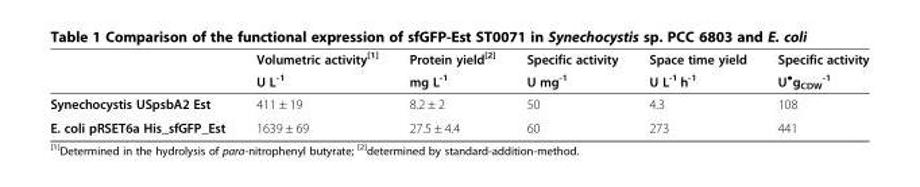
<table><thead><tr><td rowspan="2"></td><td rowspan="2">Volumetric activity<sup>[1]</sup> U L<sup>-1</sup></td><td rowspan="2">Protein yield<sup>[2]</sup> mg L<sup>-1</sup></td><td rowspan="2">Specific activity U mg<sup>-1</sup></td><td rowspan="2">Space time yield U L<sup>-1</sup> h<sup>-1</sup></td><td rowspan="2">Specific activity U<sup>●</sup>g<sub>CDW</sub> <sup>-1</sup></td></tr><tr></tr></thead><tbody><tr><td>Synechocystis USpsbA2 Est</td><td>411 ± 19</td><td>8.2 ± 2</td><td>50</td><td>4.3</td><td>108</td></tr><tr><td>E. coli pRSET6a His_sfGFP_Est</td><td>1639 ± 69</td><td>27.5 ± 4.4</td><td>60</td><td>273</td><td>441</td></tr></tbody></table>